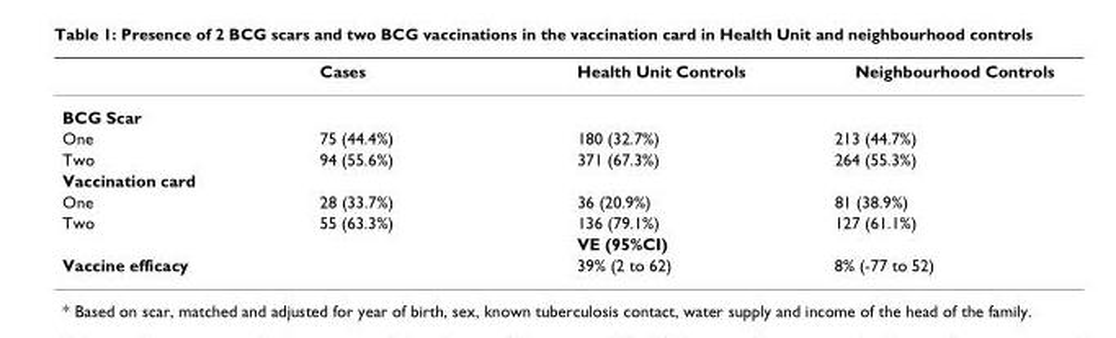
<table><thead><tr><td></td><td>Cases</td><td>Health Unit Controls</td><td>Neighbourhood Controls</td></tr></thead><tbody><tr><td colspan="4">BCG Scar</td></tr><tr><td>One</td><td>75 (44.4%)</td><td>180 (32.7%)</td><td>213 (44.7%)</td></tr><tr><td>Two</td><td>94 (55.6%)</td><td>371 (67.3%)</td><td>264 (55.3%)</td></tr><tr><td colspan="4">Vaccination card</td></tr><tr><td>One</td><td>28 (33.7%)</td><td>36 (20.9%)</td><td>81 (38.9%)</td></tr><tr><td rowspan="2">Two</td><td>55 (63.3%)</td><td>136 (79.1%)</td><td>127 (61.1%)</td></tr><tr><td></td><td>VE (95%CI)</td><td></td></tr><tr><td>Vaccine efficacy</td><td></td><td>39% (2 to 62)</td><td>8% (-77 to 52)</td></tr></tbody></table>